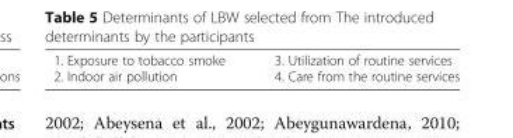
<table><tbody><tr><td>1. Exposure to tobacco smoke 2. Indoor air pollution</td><td>3. Utilization of routine services 4. Care from the routine services</td></tr></tbody></table>